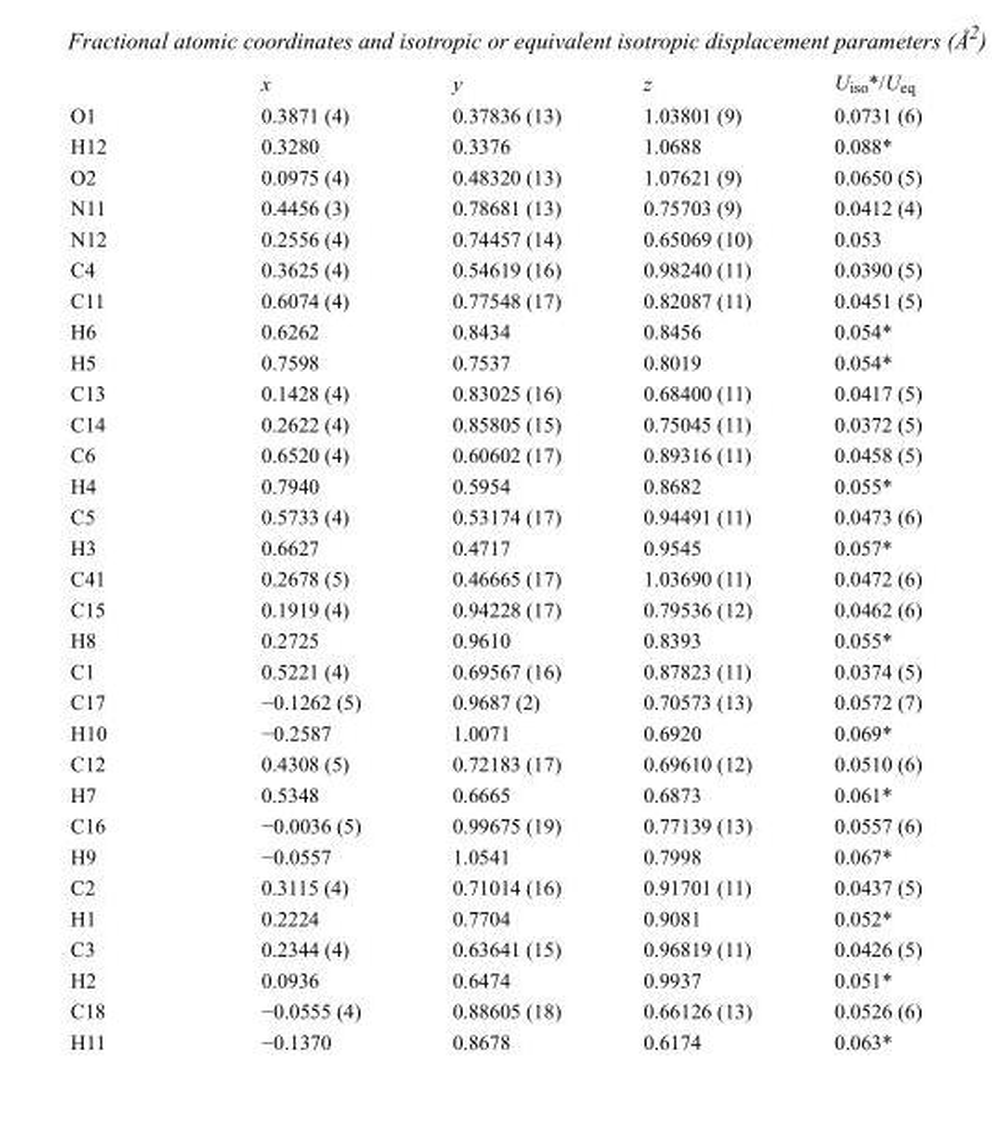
<table><thead><tr><td></td><td>x</td><td>y</td><td>z</td><td>U<sub>iso</sub>*/U<sub>eq</sub></td></tr></thead><tbody><tr><td>O1</td><td>0.3871 (4)</td><td>0.37836 (13)</td><td>1.03801 (9)</td><td>0.0731 (6)</td></tr><tr><td>H12</td><td>0.3280</td><td>0.3376</td><td>1.0688</td><td>0.088*</td></tr><tr><td>O2</td><td>0.0975 (4)</td><td>0.48320 (13)</td><td>1.07621 (9)</td><td>0.0650 (5)</td></tr><tr><td>N11</td><td>0.4456 (3)</td><td>0.78681 (13)</td><td>0.75703 (9)</td><td>0.0412 (4)</td></tr><tr><td>N12</td><td>0.2556 (4)</td><td>0.74457 (14)</td><td>0.65069 (10)</td><td>0.053</td></tr><tr><td>C4</td><td>0.3625 (4)</td><td>0.54619 (16)</td><td>0.98240 (11)</td><td>0.0390 (5)</td></tr><tr><td>C11</td><td>0.6074 (4)</td><td>0.77548 (17)</td><td>0.82087 (11)</td><td>0.0451 (5)</td></tr><tr><td>H6</td><td>0.6262</td><td>0.8434</td><td>0.8456</td><td>0.054*</td></tr><tr><td>H5</td><td>0.7598</td><td>0.7537</td><td>0.8019</td><td>0.054*</td></tr><tr><td>C13</td><td>0.1428 (4)</td><td>0.83025 (16)</td><td>0.68400 (11)</td><td>0.0417 (5)</td></tr><tr><td>C14</td><td>0.2622 (4)</td><td>0.85805 (15)</td><td>0.75045 (11)</td><td>0.0372 (5)</td></tr><tr><td>C6</td><td>0.6520 (4)</td><td>0.60602 (17)</td><td>0.89316 (11)</td><td>0.0458 (5)</td></tr><tr><td>H4</td><td>0.7940</td><td>0.5954</td><td>0.8682</td><td>0.055*</td></tr><tr><td>C5</td><td>0.5733 (4)</td><td>0.53174 (17)</td><td>0.94491 (11)</td><td>0.0473 (6)</td></tr><tr><td>H3</td><td>0.6627</td><td>0.4717</td><td>0.9545</td><td>0.057*</td></tr><tr><td>C41</td><td>0.2678 (5)</td><td>0.46665 (17)</td><td>1.03690 (11)</td><td>0.0472 (6)</td></tr><tr><td>C15</td><td>0.1919 (4)</td><td>0.94228 (17)</td><td>0.79536 (12)</td><td>0.0462 (6)</td></tr><tr><td>H8</td><td>0.2725</td><td>0.9610</td><td>0.8393</td><td>0.055*</td></tr><tr><td>C1</td><td>0.5221 (4)</td><td>0.69567 (16)</td><td>0.87823 (11)</td><td>0.0374 (5)</td></tr><tr><td>C17</td><td>−0.1262 (5)</td><td>0.9687 (2)</td><td>0.70573 (13)</td><td>0.0572 (7)</td></tr><tr><td>H10</td><td>−0.2587</td><td>1.0071</td><td>0.6920</td><td>0.069*</td></tr><tr><td>C12</td><td>0.4308 (5)</td><td>0.72183 (17)</td><td>0.69610 (12)</td><td>0.0510 (6)</td></tr><tr><td>H7</td><td>0.5348</td><td>0.6665</td><td>0.6873</td><td>0.061*</td></tr><tr><td>C16</td><td>−0.0036 (5)</td><td>0.99675 (19)</td><td>0.77139 (13)</td><td>0.0557 (6)</td></tr><tr><td>H9</td><td>−0.0557</td><td>1.0541</td><td>0.7998</td><td>0.067*</td></tr><tr><td>C2</td><td>0.3115 (4)</td><td>0.71014 (16)</td><td>0.91701 (11)</td><td>0.0437 (5)</td></tr><tr><td>H1</td><td>0.2224</td><td>0.7704</td><td>0.9081</td><td>0.052*</td></tr><tr><td>C3</td><td>0.2344 (4)</td><td>0.63641 (15)</td><td>0.96819 (11)</td><td>0.0426 (5)</td></tr><tr><td>H2</td><td>0.0936</td><td>0.6474</td><td>0.9937</td><td>0.051*</td></tr><tr><td>C18</td><td>−0.0555 (4)</td><td>0.88605 (18)</td><td>0.66126 (13)</td><td>0.0526 (6)</td></tr><tr><td>H11</td><td>−0.1370</td><td>0.8678</td><td>0.6174</td><td>0.063*</td></tr></tbody></table>